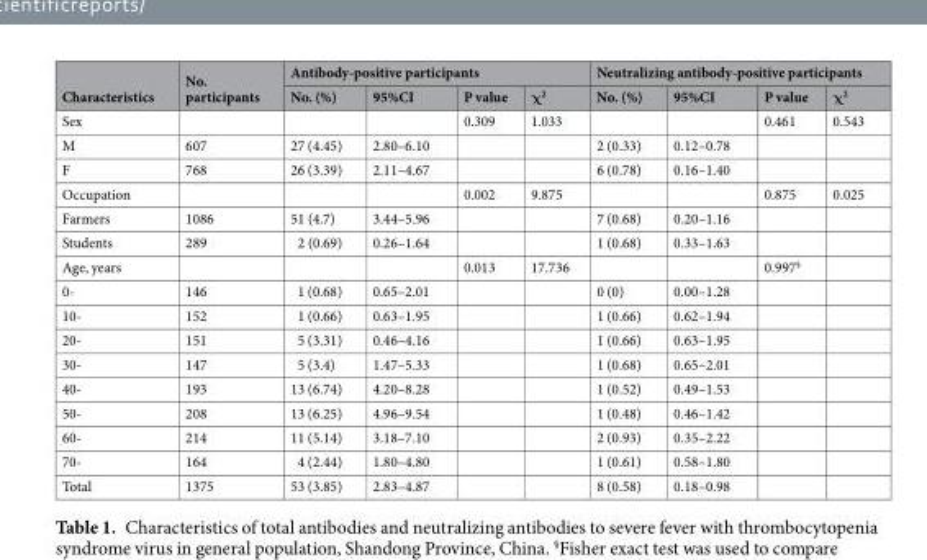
<table><thead><tr><td rowspan="2">Characteristics</td><td rowspan="2">No. participants</td><td colspan="4">Antibody-positive participants</td><td colspan="4">Neutralizing antibody-positive participants</td></tr><tr><td>No. (%)</td><td>95%CI</td><td>P value</td><td>χ<sup>2</sup></td><td>No. (%)</td><td>95%CI</td><td>P value</td><td>χ<sup>2</sup></td></tr></thead><tbody><tr><td>Sex</td><td></td><td></td><td></td><td>0.309</td><td>1.033</td><td></td><td></td><td>0.461</td><td>0.543</td></tr><tr><td>M</td><td>607</td><td>27 (4.45)</td><td>2.80–6.10</td><td></td><td></td><td>2 (0.33)</td><td>0.12–0.78</td><td></td><td></td></tr><tr><td>F</td><td>768</td><td>26 (3.39)</td><td>2.11–4.67</td><td></td><td></td><td>6 (0.78)</td><td>0.16–1.40</td><td></td><td></td></tr><tr><td>Occupation</td><td></td><td></td><td></td><td>0.002</td><td>9.875</td><td></td><td></td><td>0.875</td><td>0.025</td></tr><tr><td>Farmers</td><td>1086</td><td>51 (4.7)</td><td>3.44–5.96</td><td></td><td></td><td>7 (0.68)</td><td>0.20–1.16</td><td></td><td></td></tr><tr><td>Students</td><td>289</td><td>2 (0.69)</td><td>0.26–1.64</td><td></td><td></td><td>1 (0.68)</td><td>0.33–1.63</td><td></td><td></td></tr><tr><td>Age, years</td><td></td><td></td><td></td><td>0.013</td><td>17.736</td><td></td><td></td><td>0.997<sup>§</sup></td><td></td></tr><tr><td>0-</td><td>146</td><td>1 (0.68)</td><td>0.65–2.01</td><td></td><td></td><td>0 (0)</td><td>0.00–1.28</td><td></td><td></td></tr><tr><td>10-</td><td>152</td><td>1 (0.66)</td><td>0.63–1.95</td><td></td><td></td><td>1 (0.66)</td><td>0.62–1.94</td><td></td><td></td></tr><tr><td>20-</td><td>151</td><td>5 (3.31)</td><td>0.46–4.16</td><td></td><td></td><td>1 (0.66)</td><td>0.63–1.95</td><td></td><td></td></tr><tr><td>30-</td><td>147</td><td>5 (3.4)</td><td>1.47–5.33</td><td></td><td></td><td>1 (0.68)</td><td>0.65–2.01</td><td></td><td></td></tr><tr><td>40-</td><td>193</td><td>13 (6.74)</td><td>4.20–8.28</td><td></td><td></td><td>1 (0.52)</td><td>0.49–1.53</td><td></td><td></td></tr><tr><td>50-</td><td>208</td><td>13 (6.25)</td><td>4.96–9.54</td><td></td><td></td><td>1 (0.48)</td><td>0.46–1.42</td><td></td><td></td></tr><tr><td>60-</td><td>214</td><td>11 (5.14)</td><td>3.18–7.10</td><td></td><td></td><td>2 (0.93)</td><td>0.35–2.22</td><td></td><td></td></tr><tr><td>70-</td><td>164</td><td>4 (2.44)</td><td>1.80–4.80</td><td></td><td></td><td>1 (0.61)</td><td>0.58–1.80</td><td></td><td></td></tr><tr><td>Total</td><td>1375</td><td>53 (3.85)</td><td>2.83–4.87</td><td></td><td></td><td>8 (0.58)</td><td>0.18–0.98</td><td></td><td></td></tr></tbody></table>